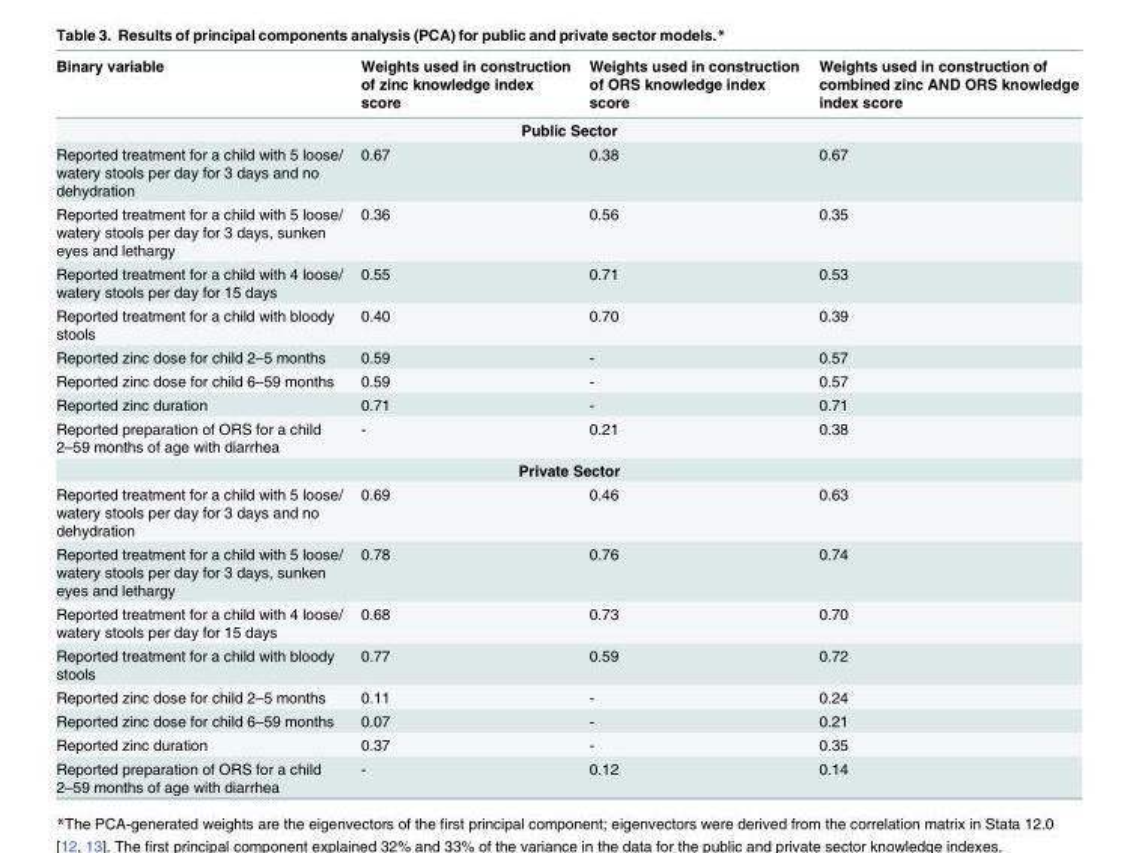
<table><thead><tr><td>Binary variable</td><td>Weights used in construction of zinc knowledge index score</td><td>Weights used in construction of ORS knowledge index score</td><td>Weights used in construction of combined zinc AND ORS knowledge index score</td></tr></thead><tbody><tr><td colspan="4">Public Sector</td></tr><tr><td>Reported treatment for a child with 5 loose/ watery stools per day for 3 days and no dehydration</td><td>0.67</td><td>0.38</td><td>0.67</td></tr><tr><td>Reported treatment for a child with 5 loose/ watery stools per day for 3 days, sunken eyes and lethargy</td><td>0.36</td><td>0.56</td><td>0.35</td></tr><tr><td>Reported treatment for a child with 4 loose/ watery stools per day for 15 days</td><td>0.55</td><td>0.71</td><td>0.53</td></tr><tr><td>Reported treatment for a child with bloody stools</td><td>0.40</td><td>0.70</td><td>0.39</td></tr><tr><td>Reported zinc dose for child 2–5 months</td><td>0.59</td><td>-</td><td>0.57</td></tr><tr><td>Reported zinc dose for child 6–59 months</td><td>0.59</td><td>-</td><td>0.57</td></tr><tr><td>Reported zinc duration</td><td>0.71</td><td>-</td><td>0.71</td></tr><tr><td>Reported preparation of ORS for a child 2–59 months of age with diarrhea</td><td>-</td><td>0.21</td><td>0.38</td></tr><tr><td colspan="4">Private Sector</td></tr><tr><td>Reported treatment for a child with 5 loose/ watery stools per day for 3 days and no dehydration</td><td>0.69</td><td>0.46</td><td>0.63</td></tr><tr><td>Reported treatment for a child with 5 loose/ watery stools per day for 3 days, sunken eyes and lethargy</td><td>0.78</td><td>0.76</td><td>0.74</td></tr><tr><td>Reported treatment for a child with 4 loose/ watery stools per day for 15 days</td><td>0.68</td><td>0.73</td><td>0.70</td></tr><tr><td>Reported treatment for a child with bloody stools</td><td>0.77</td><td>0.59</td><td>0.72</td></tr><tr><td>Reported zinc dose for child 2–5 months</td><td>0.11</td><td>-</td><td>0.24</td></tr><tr><td>Reported zinc dose for child 6–59 months</td><td>0.07</td><td>-</td><td>0.21</td></tr><tr><td>Reported zinc duration</td><td>0.37</td><td>-</td><td>0.35</td></tr><tr><td>Reported preparation of ORS for a child 2–59 months of age with diarrhea</td><td>-</td><td>0.12</td><td>0.14</td></tr></tbody></table>